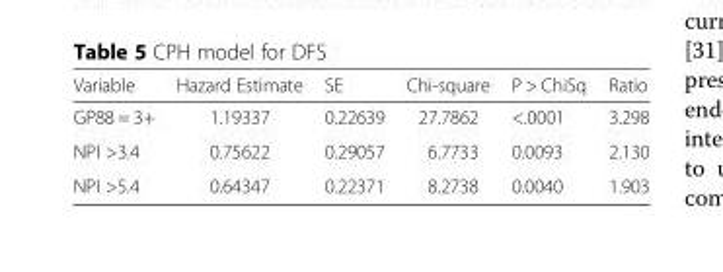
<table><thead><tr><td>Variable</td><td>Hazard Estimate</td><td>SE</td><td>Chi-square</td><td>P &gt; ChiSq</td><td>Ratio</td></tr></thead><tbody><tr><td>GP88 = 3+</td><td>1.19337</td><td>0.22639</td><td>27.7862</td><td>&lt;.0001</td><td>3.298</td></tr><tr><td>NPI &gt;3.4</td><td>0.75622</td><td>0.29057</td><td>6.7733</td><td>0.0093</td><td>2.130</td></tr><tr><td>NPI &gt;5.4</td><td>0.64347</td><td>0.22371</td><td>8.2738</td><td>0.0040</td><td>1.903</td></tr></tbody></table>